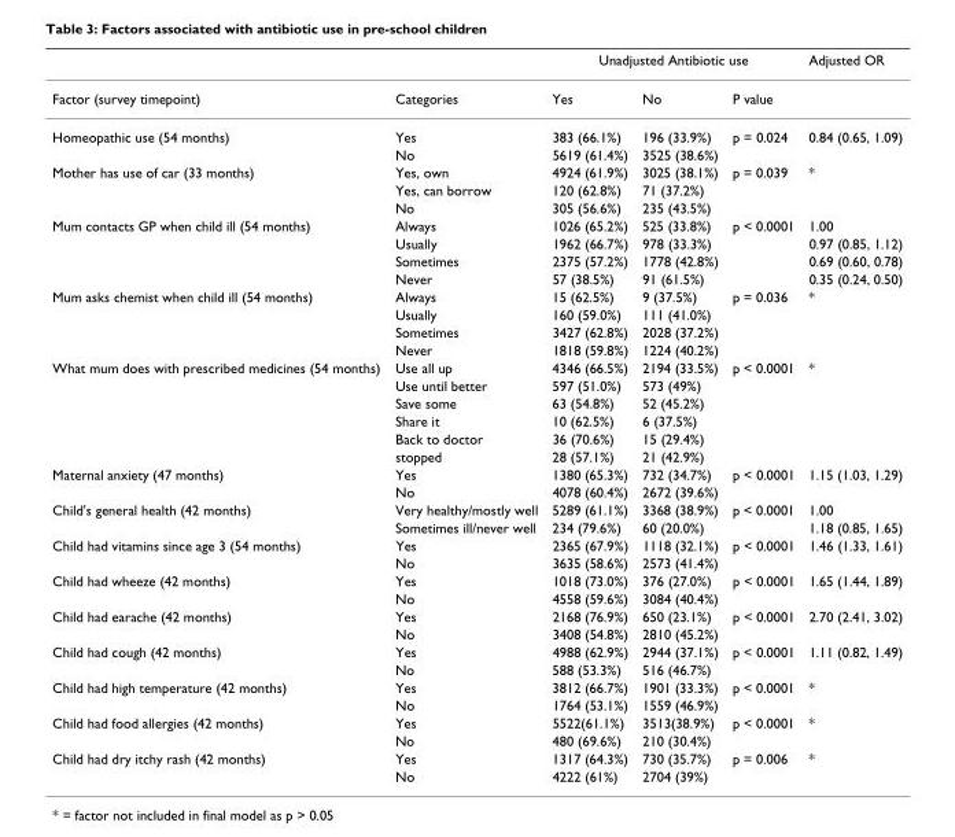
<table><thead><tr><td rowspan="2">Factor (survey timepoint)</td><td rowspan="2">Categories</td><td colspan="3">Unadjusted Antibiotic use</td><td rowspan="2">Adjusted OR</td></tr><tr><td>Yes</td><td>No</td><td>P value</td></tr></thead><tbody><tr><td rowspan="2">Homeopathic use (54 months)</td><td>Yes</td><td>383 (66.1%)</td><td>196 (33.9%)</td><td>p = 0.024</td><td>0.84 (0.65, 1.09)</td></tr><tr><td>No</td><td>5619 (61.4%)</td><td>3525 (38.6%)</td><td></td><td></td></tr><tr><td rowspan="3">Mother has use of car (33 months)</td><td>Yes, own</td><td>4924 (61.9%)</td><td>3025 (38.1%)</td><td>p = 0.039</td><td>*</td></tr><tr><td>Yes, can borrow</td><td>120 (62.8%)</td><td>71 (37.2%)</td><td></td><td></td></tr><tr><td>No</td><td>305 (56.6%)</td><td>235 (43.5%)</td><td></td><td></td></tr><tr><td rowspan="4">Mum contacts GP when child ill (54 months)</td><td>Always</td><td>1026 (65.2%)</td><td>525 (33.8%)</td><td>p &lt; 0.0001</td><td>1.00</td></tr><tr><td>Usually</td><td>1962 (66.7%)</td><td>978 (33.3%)</td><td></td><td>0.97 (0.85, 1.12)</td></tr><tr><td>Sometimes</td><td>2375 (57.2%)</td><td>1778 (42.8%)</td><td></td><td>0.69 (0.60, 0.78)</td></tr><tr><td>Never</td><td>57 (38.5%)</td><td>91 (61.5%)</td><td></td><td>0.35 (0.24, 0.50)</td></tr><tr><td rowspan="4">Mum asks chemist when child ill (54 months)</td><td>Always</td><td>15 (62.5%)</td><td>9 (37.5%)</td><td>p = 0.036</td><td>*</td></tr><tr><td>Usually</td><td>160 (59.0%)</td><td>111 (41.0%)</td><td></td><td></td></tr><tr><td>Sometimes</td><td>3427 (62.8%)</td><td>2028 (37.2%)</td><td></td><td></td></tr><tr><td>Never</td><td>1818 (59.8%)</td><td>1224 (40.2%)</td><td></td><td></td></tr><tr><td rowspan="6">What mum does with prescribed medicines (54 months)</td><td>Use all up</td><td>4346 (66.5%)</td><td>2194 (33.5%)</td><td>p &lt; 0.0001</td><td>*</td></tr><tr><td>Use until better</td><td>597 (51.0%)</td><td>573 (49%)</td><td></td><td></td></tr><tr><td>Save some</td><td>63 (54.8%)</td><td>52 (45.2%)</td><td></td><td></td></tr><tr><td>Share it</td><td>10 (62.5%)</td><td>6 (37.5%)</td><td></td><td></td></tr><tr><td>Back to doctor</td><td>36 (70.6%)</td><td>15 (29.4%)</td><td></td><td></td></tr><tr><td>stopped</td><td>28 (57.1%)</td><td>21 (42.9%)</td><td></td><td></td></tr><tr><td rowspan="2">Maternal anxiety (47 months)</td><td>Yes</td><td>1380 (65.3%)</td><td>732 (34.7%)</td><td>p &lt; 0.0001</td><td>1.15 (1.03, 1.29)</td></tr><tr><td>No</td><td>4078 (60.4%)</td><td>2672 (39.6%)</td><td></td><td></td></tr><tr><td rowspan="2">Child&#x27;s general health (42 months)</td><td>Very healthy/mostly well</td><td>5289 (61.1%)</td><td>3368 (38.9%)</td><td>p &lt; 0.0001</td><td>1.00</td></tr><tr><td>Sometimes ill/never well</td><td>234 (79.6%)</td><td>60 (20.0%)</td><td></td><td>1.18 (0.85, 1.65)</td></tr><tr><td rowspan="2">Child had vitamins since age 3 (54 months)</td><td>Yes</td><td>2365 (67.9%)</td><td>1118 (32.1%)</td><td>p &lt; 0.0001</td><td>1.46 (1.33, 1.61)</td></tr><tr><td>No</td><td>3635 (58.6%)</td><td>2573 (41.4%)</td><td></td><td></td></tr><tr><td rowspan="2">Child had wheeze (42 months)</td><td>Yes</td><td>1018 (73.0%)</td><td>376 (27.0%)</td><td>p &lt; 0.0001</td><td>1.65 (1.44, 1.89)</td></tr><tr><td>No</td><td>4558 (59.6%)</td><td>3084 (40.4%)</td><td></td><td></td></tr><tr><td rowspan="2">Child had earache (42 months)</td><td>Yes</td><td>2168 (76.9%)</td><td>650 (23.1%)</td><td>p &lt; 0.0001</td><td>2.70 (2.41, 3.02)</td></tr><tr><td>No</td><td>3408 (54.8%)</td><td>2810 (45.2%)</td><td></td><td></td></tr><tr><td rowspan="2">Child had cough (42 months)</td><td>Yes</td><td>4988 (62.9%)</td><td>2944 (37.1%)</td><td>p &lt; 0.0001</td><td>1.11 (0.82, 1.49)</td></tr><tr><td>No</td><td>588 (53.3%)</td><td>516 (46.7%)</td><td></td><td></td></tr><tr><td rowspan="2">Child had high temperature (42 months)</td><td>Yes</td><td>3812 (66.7%)</td><td>1901 (33.3%)</td><td>p &lt; 0.0001</td><td>*</td></tr><tr><td>No</td><td>1764 (53.1%)</td><td>1559 (46.9%)</td><td></td><td></td></tr><tr><td rowspan="2">Child had food allergies (42 months)</td><td>Yes</td><td>5522(61.1%)</td><td>3513(38.9%)</td><td>p &lt; 0.0001</td><td>*</td></tr><tr><td>No</td><td>480 (69.6%)</td><td>210 (30.4%)</td><td></td><td></td></tr><tr><td rowspan="2">Child had dry itchy rash (42 months)</td><td>Yes</td><td>1317 (64.3%)</td><td>730 (35.7%)</td><td>p = 0.006</td><td>*</td></tr><tr><td>No</td><td>4222 (61%)</td><td>2704 (39%)</td><td></td><td></td></tr></tbody></table>